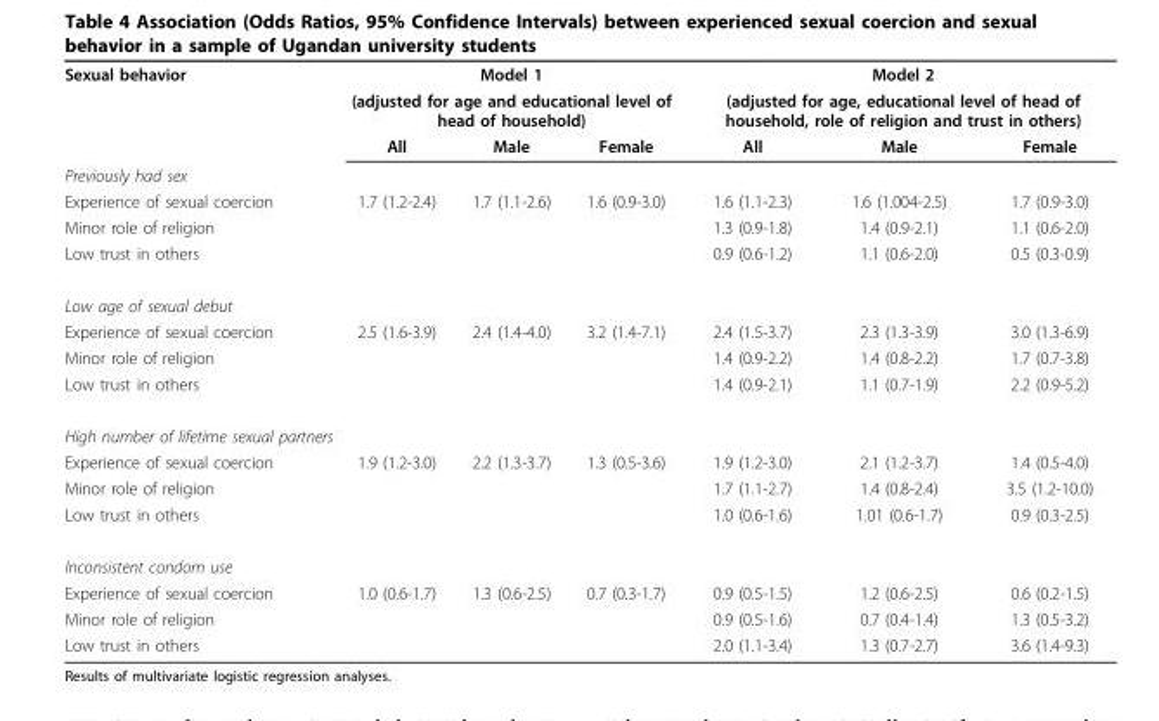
<table><tbody><tr><td rowspan="3">Sexual behavior</td><td colspan="3">Model 1</td><td colspan="3">Model 2</td></tr><tr><td colspan="3">(adjusted for age and educational level of head of household)</td><td colspan="3">(adjusted for age, educational level of head of household, role of religion and trust in others)</td></tr><tr><td>All</td><td>Male</td><td>Female</td><td>All</td><td>Male</td><td>Female</td></tr><tr><td colspan="7">Previously had sex</td></tr><tr><td>Experience of sexual coercion</td><td>1.7 (1.2-2.4)</td><td>1.7 (1.1-2.6)</td><td>1.6 (0.9-3.0)</td><td>1.6 (1.1-2.3)</td><td>1.6 (1.004-2.5)</td><td>1.7 (0.9-3.0)</td></tr><tr><td>Minor role of religion</td><td></td><td></td><td></td><td>1.3 (0.9-1.8)</td><td>1.4 (0.9-2.1)</td><td>1.1 (0.6-2.0)</td></tr><tr><td>Low trust in others</td><td></td><td></td><td></td><td>0.9 (0.6-1.2)</td><td>1.1 (0.6-2.0)</td><td>0.5 (0.3-0.9)</td></tr><tr><td colspan="7">Low age of sexual debut</td></tr><tr><td>Experience of sexual coercion</td><td>2.5 (1.6-3.9)</td><td>2.4 (1.4-4.0)</td><td>3.2 (1.4-7.1)</td><td>2.4 (1.5-3.7)</td><td>2.3 (1.3-3.9)</td><td>3.0 (1.3-6.9)</td></tr><tr><td>Minor role of religion</td><td></td><td></td><td></td><td>1.4 (0.9-2.2)</td><td>1.4 (0.8-2.2)</td><td>1.7 (0.7-3.8)</td></tr><tr><td>Low trust in others</td><td></td><td></td><td></td><td>1.4 (0.9-2.1)</td><td>1.1 (0.7-1.9)</td><td>2.2 (0.9-5.2)</td></tr><tr><td colspan="7">High number of lifetime sexual partners</td></tr><tr><td>Experience of sexual coercion</td><td>1.9 (1.2-3.0)</td><td>2.2 (1.3-3.7)</td><td>1.3 (0.5-3.6)</td><td>1.9 (1.2-3.0)</td><td>2.1 (1.2-3.7)</td><td>1.4 (0.5-4.0)</td></tr><tr><td>Minor role of religion</td><td></td><td></td><td></td><td>1.7 (1.1-2.7)</td><td>1.4 (0.8-2.4)</td><td>3.5 (1.2-10.0)</td></tr><tr><td>Low trust in others</td><td></td><td></td><td></td><td>1.0 (0.6-1.6)</td><td>1.01 (0.6-1.7)</td><td>0.9 (0.3-2.5)</td></tr><tr><td colspan="7">Inconsistent condom use</td></tr><tr><td>Experience of sexual coercion</td><td>1.0 (0.6-1.7)</td><td>1.3 (0.6-2.5)</td><td>0.7 (0.3-1.7)</td><td>0.9 (0.5-1.5)</td><td>1.2 (0.6-2.5)</td><td>0.6 (0.2-1.5)</td></tr><tr><td>Minor role of religion</td><td></td><td></td><td></td><td>0.9 (0.5-1.6)</td><td>0.7 (0.4-1.4)</td><td>1.3 (0.5-3.2)</td></tr><tr><td>Low trust in others</td><td></td><td></td><td></td><td>2.0 (1.1-3.4)</td><td>1.3 (0.7-2.7)</td><td>3.6 (1.4-9.3)</td></tr></tbody></table>